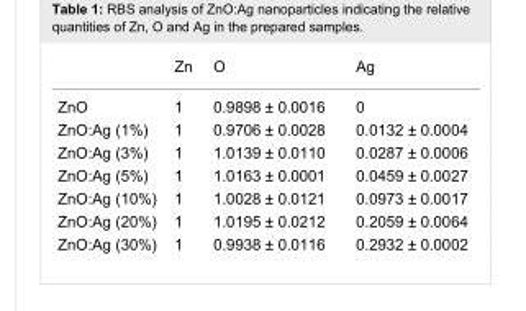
<table><thead><tr><td></td><td>Zn</td><td>O</td><td>Ag</td></tr></thead><tbody><tr><td>ZnO</td><td>1</td><td>0.9898 ± 0.0016</td><td>0</td></tr><tr><td>ZnO:Ag (1%)</td><td>1</td><td>0.9706 ± 0.0028</td><td>0.0132 ± 0.0004</td></tr><tr><td>ZnO:Ag (3%)</td><td>1</td><td>1.0139 ± 0.0110</td><td>0.0287 ± 0.0006</td></tr><tr><td>ZnO:Ag (5%)</td><td>1</td><td>1.0163 ± 0.0001</td><td>0.0459 ± 0.0027</td></tr><tr><td>ZnO:Ag (10%)</td><td>1</td><td>1.0028 ± 0.0121</td><td>0.0973 ± 0.0017</td></tr><tr><td>ZnO:Ag (20%)</td><td>1</td><td>1.0195 ± 0.0212</td><td>0.2059 ± 0.0064</td></tr><tr><td>ZnO:Ag (30%)</td><td>1</td><td>0.9938 ± 0.0116</td><td>0.2932 ± 0.0002</td></tr></tbody></table>